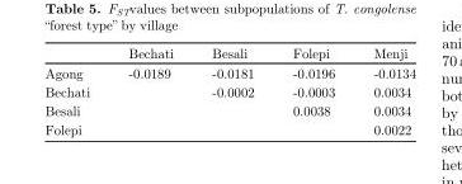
<table><thead><tr><td></td><td>Bechati</td><td>Besali</td><td>Folepi</td><td>Menji</td></tr></thead><tbody><tr><td>Agong</td><td>-0.0189</td><td>-0.0181</td><td>-0.0196</td><td>-0.0134</td></tr><tr><td>Bechati</td><td></td><td>-0.0002</td><td>-0.0003</td><td>0.0034</td></tr><tr><td>Besali</td><td></td><td></td><td>0.0038</td><td>0.0034</td></tr><tr><td>Folepi</td><td></td><td></td><td></td><td>0.0022</td></tr></tbody></table>